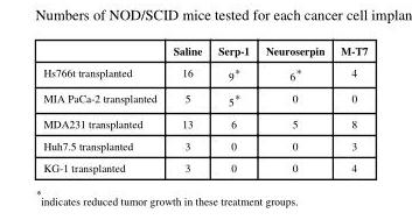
<table><thead><tr><td></td><td>Saline</td><td>Serp-1</td><td>Neuroserpin</td><td>M-T7</td></tr></thead><tbody><tr><td>Hs766t transplanted</td><td>16</td><td>9*</td><td>6*</td><td>4</td></tr><tr><td>MIA PaCa-2 transplanted</td><td>5</td><td>5*</td><td>0</td><td>0</td></tr><tr><td>MDA231 transplanted</td><td>13</td><td>6</td><td>5</td><td>8</td></tr><tr><td>Huh7.5 transplanted</td><td>3</td><td>0</td><td>0</td><td>3</td></tr><tr><td>KG-1 transplanted</td><td>3</td><td>0</td><td>0</td><td>4</td></tr></tbody></table>